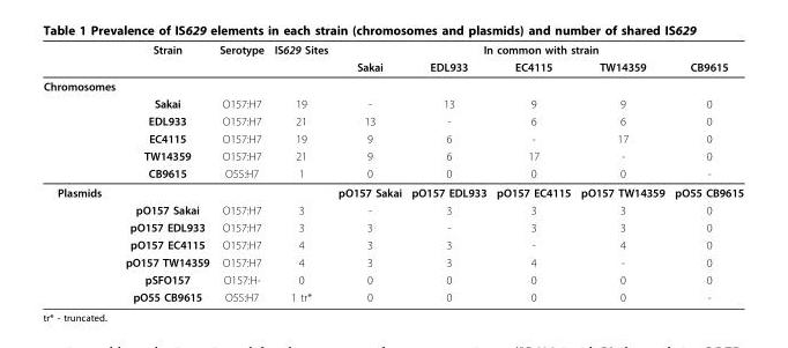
<table><thead><tr><td rowspan="2"></td><td rowspan="2">Strain</td><td rowspan="2">Serotype</td><td rowspan="2">IS629 Sites</td><td colspan="5">In common with strain</td></tr><tr><td>Sakai</td><td>EDL933</td><td>EC4115</td><td>TW14359</td><td>CB9615</td></tr></thead><tbody><tr><td colspan="9">Chromosomes</td></tr><tr><td></td><td>Sakai</td><td>O157:H7</td><td>19</td><td>-</td><td>13</td><td>9</td><td>9</td><td>0</td></tr><tr><td></td><td>EDL933</td><td>O157:H7</td><td>21</td><td>13</td><td>-</td><td>6</td><td>6</td><td>0</td></tr><tr><td></td><td>EC4115</td><td>O157:H7</td><td>19</td><td>9</td><td>6</td><td>-</td><td>17</td><td>0</td></tr><tr><td></td><td>TW14359</td><td>O157:H7</td><td>21</td><td>9</td><td>6</td><td>17</td><td>-</td><td>0</td></tr><tr><td></td><td>CB9615</td><td>O55:H7</td><td>1</td><td>0</td><td>0</td><td>0</td><td>0</td><td>-</td></tr><tr><td rowspan="7">Plasmids</td><td></td><td></td><td></td><td>pO157 Sakai</td><td>pO157 EDL933</td><td>pO157 EC4115</td><td>pO157 TW14359</td><td>pO55 CB9615</td></tr><tr><td>pO157 Sakai</td><td>O157:H7</td><td>3</td><td>-</td><td>3</td><td>3</td><td>3</td><td>0</td></tr><tr><td>pO157 EDL933</td><td>O157:H7</td><td>3</td><td>3</td><td>-</td><td>3</td><td>3</td><td>0</td></tr><tr><td>pO157 EC4115</td><td>O157:H7</td><td>4</td><td>3</td><td>3</td><td>-</td><td>4</td><td>0</td></tr><tr><td>pO157 TW14359</td><td>O157:H7</td><td>4</td><td>3</td><td>3</td><td>4</td><td>-</td><td>0</td></tr><tr><td>pSFO157</td><td>O157:H-</td><td>0</td><td>0</td><td>0</td><td>0</td><td>0</td><td>0</td></tr><tr><td>pO55 CB9615</td><td>O55:H7</td><td>1 tr*</td><td>0</td><td>0</td><td>0</td><td>0</td><td>-</td></tr></tbody></table>